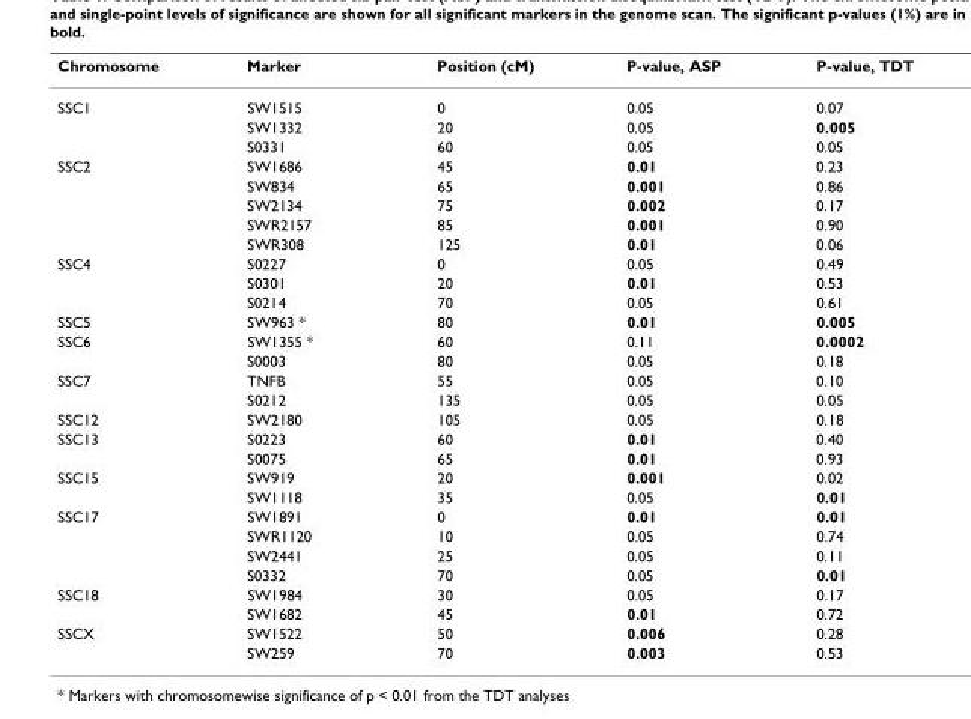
<table><thead><tr><td>Chromosome</td><td>Marker</td><td>Position (cM)</td><td>P-value, ASP</td><td>P-value, TDT</td></tr></thead><tbody><tr><td rowspan="3">SSC1</td><td>SW1515</td><td>0</td><td>0.05</td><td>0.07</td></tr><tr><td>SW1332</td><td>20</td><td>0.05</td><td>0.005</td></tr><tr><td>S0331</td><td>60</td><td>0.05</td><td>0.05</td></tr><tr><td rowspan="5">SSC2</td><td>SW1686</td><td>45</td><td>0.01</td><td>0.23</td></tr><tr><td>SW834</td><td>65</td><td>0.001</td><td>0.86</td></tr><tr><td>SW2134</td><td>75</td><td>0.002</td><td>0.17</td></tr><tr><td>SWR2157</td><td>85</td><td>0.001</td><td>0.90</td></tr><tr><td>SWR308</td><td>125</td><td>0.01</td><td>0.06</td></tr><tr><td rowspan="3">SSC4</td><td>S0227</td><td>0</td><td>0.05</td><td>0.49</td></tr><tr><td>S0301</td><td>20</td><td>0.01</td><td>0.53</td></tr><tr><td>S0214</td><td>70</td><td>0.05</td><td>0.61</td></tr><tr><td>SSC5</td><td>SW963 *</td><td>80</td><td>0.01</td><td>0.005</td></tr><tr><td rowspan="2">SSC6</td><td>SW1355 *</td><td>60</td><td>0.11</td><td>0.0002</td></tr><tr><td>S0003</td><td>80</td><td>0.05</td><td>0.18</td></tr><tr><td rowspan="2">SSC7</td><td>TNFB</td><td>55</td><td>0.05</td><td>0.10</td></tr><tr><td>S0212</td><td>135</td><td>0.05</td><td>0.05</td></tr><tr><td>SSC12</td><td>SW2180</td><td>105</td><td>0.05</td><td>0.18</td></tr><tr><td rowspan="2">SSC13</td><td>S0223</td><td>60</td><td>0.01</td><td>0.40</td></tr><tr><td>S0075</td><td>65</td><td>0.01</td><td>0.93</td></tr><tr><td rowspan="2">SSC15</td><td>SW919</td><td>20</td><td>0.001</td><td>0.02</td></tr><tr><td>SW1118</td><td>35</td><td>0.05</td><td>0.01</td></tr><tr><td rowspan="4">SSC17</td><td>SW1891</td><td>0</td><td>0.01</td><td>0.01</td></tr><tr><td>SWR1120</td><td>10</td><td>0.05</td><td>0.74</td></tr><tr><td>SW2441</td><td>25</td><td>0.05</td><td>0.11</td></tr><tr><td>S0332</td><td>70</td><td>0.05</td><td>0.01</td></tr><tr><td rowspan="2">SSC18</td><td>SW1984</td><td>30</td><td>0.05</td><td>0.17</td></tr><tr><td>SW1682</td><td>45</td><td>0.01</td><td>0.72</td></tr><tr><td rowspan="2">SSCX</td><td>SW1522</td><td>50</td><td>0.006</td><td>0.28</td></tr><tr><td>SW259</td><td>70</td><td>0.003</td><td>0.53</td></tr></tbody></table>